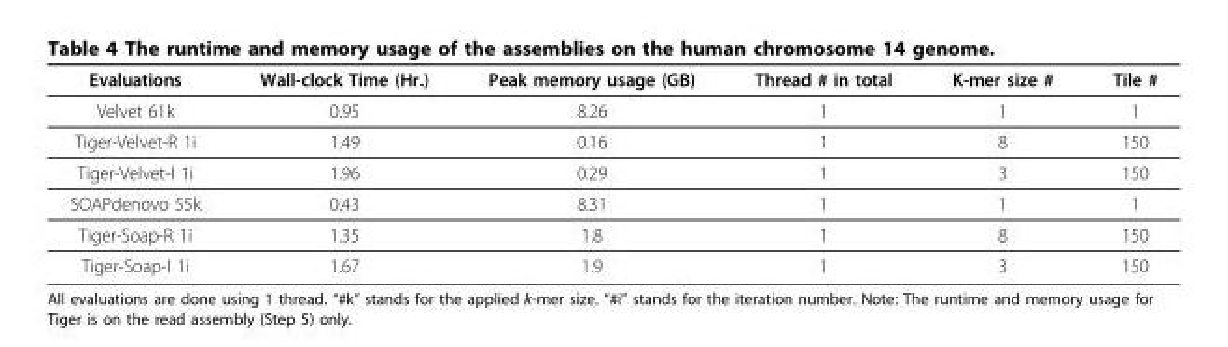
<table><thead><tr><td>Evaluations</td><td>Wall-clock Time (Hr.)</td><td>Peak memory usage (GB)</td><td>Thread # in total</td><td>K-mer size #</td><td>Tile #</td></tr></thead><tbody><tr><td>Velvet 61k</td><td>0.95</td><td>8.26</td><td>1</td><td>1</td><td>1</td></tr><tr><td>Tiger-Velvet-R 1i</td><td>1.49</td><td>0.16</td><td>1</td><td>8</td><td>150</td></tr><tr><td>Tiger-Velvet-I 1i</td><td>1.96</td><td>0.29</td><td>1</td><td>3</td><td>150</td></tr><tr><td>SOAPdenovo 55k</td><td>0.43</td><td>8.31</td><td>1</td><td>1</td><td>1</td></tr><tr><td>Tiger-Soap-R 1i</td><td>1.35</td><td>1.8</td><td>1</td><td>8</td><td>150</td></tr><tr><td>Tiger-Soap-I 1i</td><td>1.67</td><td>1.9</td><td>1</td><td>3</td><td>150</td></tr></tbody></table>